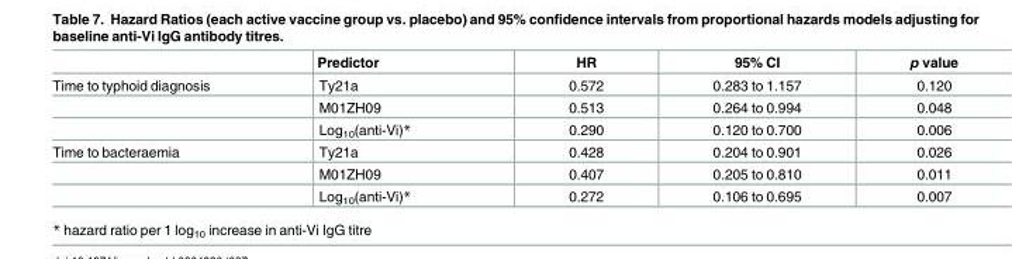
<table><thead><tr><td></td><td>Predictor</td><td>HR</td><td>95% CI</td><td>p value</td></tr></thead><tbody><tr><td rowspan="3">Time to typhoid diagnosis</td><td>Ty21a</td><td>0.572</td><td>0.283 to 1.157</td><td>0.120</td></tr><tr><td>M01ZH09</td><td>0.513</td><td>0.264 to 0.994</td><td>0.048</td></tr><tr><td>Log<sub>10</sub>(anti-Vi)*</td><td>0.290</td><td>0.120 to 0.700</td><td>0.006</td></tr><tr><td rowspan="3">Time to bacteraemia</td><td>Ty21a</td><td>0.428</td><td>0.204 to 0.901</td><td>0.026</td></tr><tr><td>M01ZH09</td><td>0.407</td><td>0.205 to 0.810</td><td>0.011</td></tr><tr><td>Log<sub>10</sub>(anti-Vi)*</td><td>0.272</td><td>0.106 to 0.695</td><td>0.007</td></tr></tbody></table>